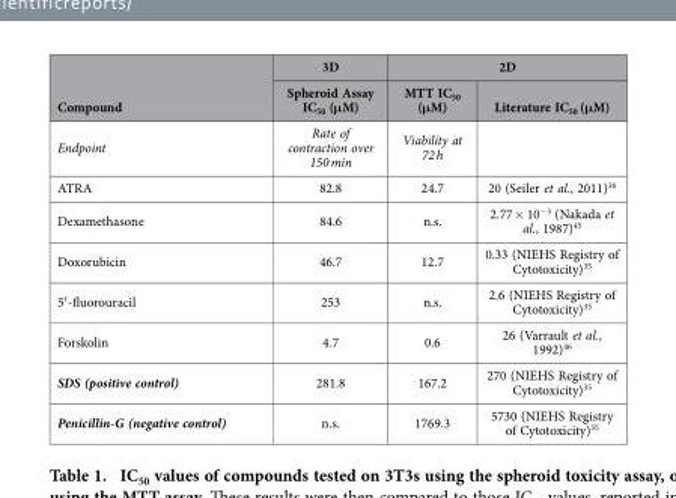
<table><thead><tr><td rowspan="2">Compound</td><td rowspan="2">3D Spheroid Assay IC<sub>50</sub> (μM)</td><td colspan="2">2D</td></tr><tr><td>MTT IC<sub>50</sub> (μM)</td><td>Literature IC<sub>50</sub> (μM)</td></tr></thead><tbody><tr><td>Endpoint</td><td>Rate of contraction over 150 min</td><td>Viability at 72 h</td><td></td></tr><tr><td>ATRA</td><td>82.8</td><td>24.7</td><td>20 (Seiler et al., 2011)<sup>16</sup></td></tr><tr><td>Dexamethasone</td><td>84.6</td><td>n.s.</td><td>2.77 × 10<sup>−3</sup> (Nakada et al., 1987)<sup>45</sup></td></tr><tr><td>Doxorubicin</td><td>46.7</td><td>12.7</td><td>0.33 (NIEHS Registry of Cytotoxicity)<sup>35</sup></td></tr><tr><td>5′ -fluorouracil</td><td>253</td><td>n.s.</td><td>2.6 (NIEHS Registry of Cytotoxicity)<sup>35</sup></td></tr><tr><td>Forskolin</td><td>4.7</td><td>0.6</td><td>26 (Varrault et al., 1992)<sup>46</sup></td></tr><tr><td>SDS (positive control)</td><td>281.8</td><td>167.2</td><td>270 (NIEHS Registry of Cytotoxicity)<sup>35</sup></td></tr><tr><td>Penicillin-G (negative control)</td><td>n.s.</td><td>1769.3</td><td>5730 (NIEHS Registry of Cytotoxicity)<sup>35</sup></td></tr></tbody></table>